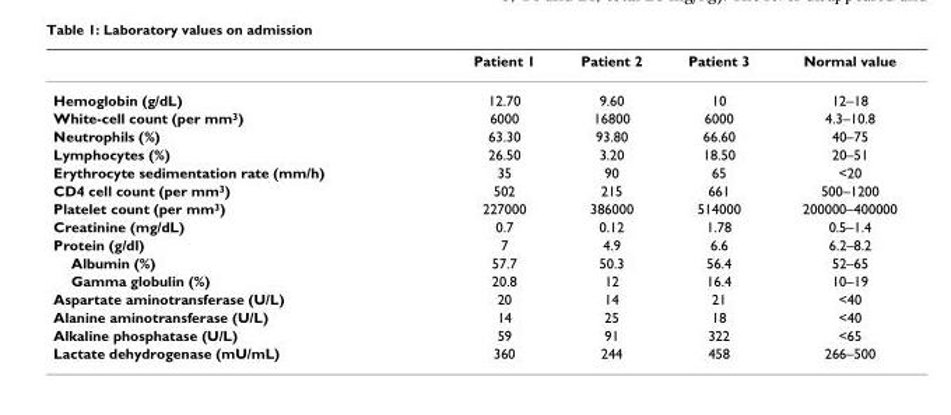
<table><thead><tr><td></td><td>Patient 1</td><td>Patient 2</td><td>Patient 3</td><td>Normal value</td></tr></thead><tbody><tr><td>Hemoglobin (g/dL)</td><td>12.70</td><td>9.60</td><td>10</td><td>12–18</td></tr><tr><td>White-cell count (per mm<sup>3</sup>)</td><td>6000</td><td>16800</td><td>6000</td><td>4.3–10.8</td></tr><tr><td>Neutrophils (%)</td><td>63.30</td><td>93.80</td><td>66.60</td><td>40–75</td></tr><tr><td>Lymphocytes (%)</td><td>26.50</td><td>3.20</td><td>18.50</td><td>20–51</td></tr><tr><td>Erythrocyte sedimentation rate (mm/h)</td><td>35</td><td>90</td><td>65</td><td>&lt;20</td></tr><tr><td>CD4 cell count (per mm<sup>3</sup>)</td><td>502</td><td>215</td><td>661</td><td>500–1200</td></tr><tr><td>Platelet count (per mm<sup>3</sup>)</td><td>227000</td><td>386000</td><td>514000</td><td>200000–400000</td></tr><tr><td>Creatinine (mg/dL)</td><td>0.7</td><td>0.12</td><td>1.78</td><td>0.5–1.4</td></tr><tr><td>Protein (g/dl)</td><td>7</td><td>4.9</td><td>6.6</td><td>6.2–8.2</td></tr><tr><td>Albumin (%)</td><td>57.7</td><td>50.3</td><td>56.4</td><td>52–65</td></tr><tr><td>Gamma globulin (%)</td><td>20.8</td><td>12</td><td>16.4</td><td>10–19</td></tr><tr><td>Aspartate aminotransferase (U/L)</td><td>20</td><td>14</td><td>21</td><td>&lt;40</td></tr><tr><td>Alanine aminotransferase (U/L)</td><td>14</td><td>25</td><td>18</td><td>&lt;40</td></tr><tr><td>Alkaline phosphatase (U/L)</td><td>59</td><td>91</td><td>322</td><td>&lt;65</td></tr><tr><td>Lactate dehydrogenase (mU/mL)</td><td>360</td><td>244</td><td>458</td><td>266–500</td></tr></tbody></table>